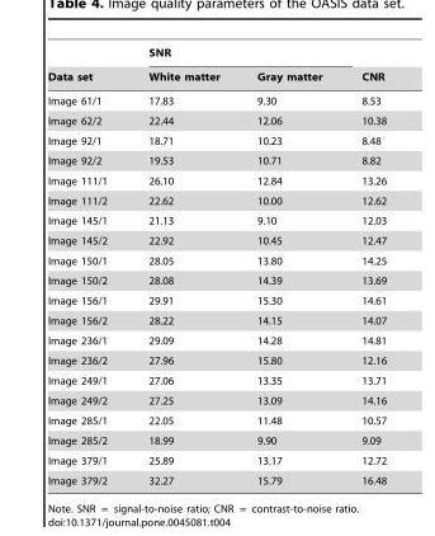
<table><thead><tr><td rowspan="2">Data set</td><td colspan="2">SNR</td><td rowspan="2">CNR</td></tr><tr><td>White matter</td><td>Gray matter</td></tr></thead><tbody><tr><td>Image 61/1</td><td>17.83</td><td>9.30</td><td>8.53</td></tr><tr><td>Image 62/2</td><td>22.44</td><td>12.06</td><td>10.38</td></tr><tr><td>Image 92/1</td><td>18.71</td><td>10.23</td><td>8.48</td></tr><tr><td>Image 92/2</td><td>19.53</td><td>10.71</td><td>8.82</td></tr><tr><td>Image 111/1</td><td>26.10</td><td>12.84</td><td>13.26</td></tr><tr><td>Image 111/2</td><td>22.62</td><td>10.00</td><td>12.62</td></tr><tr><td>Image 145/1</td><td>21.13</td><td>9.10</td><td>12.03</td></tr><tr><td>Image 145/2</td><td>22.92</td><td>10.45</td><td>12.47</td></tr><tr><td>Image 150/1</td><td>28.05</td><td>13.80</td><td>14.25</td></tr><tr><td>Image 150/2</td><td>28.08</td><td>14.39</td><td>13.69</td></tr><tr><td>Image 156/1</td><td>29.91</td><td>15.30</td><td>14.61</td></tr><tr><td>Image 156/2</td><td>28.22</td><td>14.15</td><td>14.07</td></tr><tr><td>Image 236/1</td><td>29.09</td><td>14.28</td><td>14.81</td></tr><tr><td>Image 236/2</td><td>27.96</td><td>15.80</td><td>12.16</td></tr><tr><td>Image 249/1</td><td>27.06</td><td>13.35</td><td>13.71</td></tr><tr><td>Image 249/2</td><td>27.25</td><td>13.09</td><td>14.16</td></tr><tr><td>Image 285/1</td><td>22.05</td><td>11.48</td><td>10.57</td></tr><tr><td>Image 285/2</td><td>18.99</td><td>9.90</td><td>9.09</td></tr><tr><td>Image 379/1</td><td>25.89</td><td>13.17</td><td>12.72</td></tr><tr><td>Image 379/2</td><td>32.27</td><td>15.79</td><td>16.48</td></tr></tbody></table>